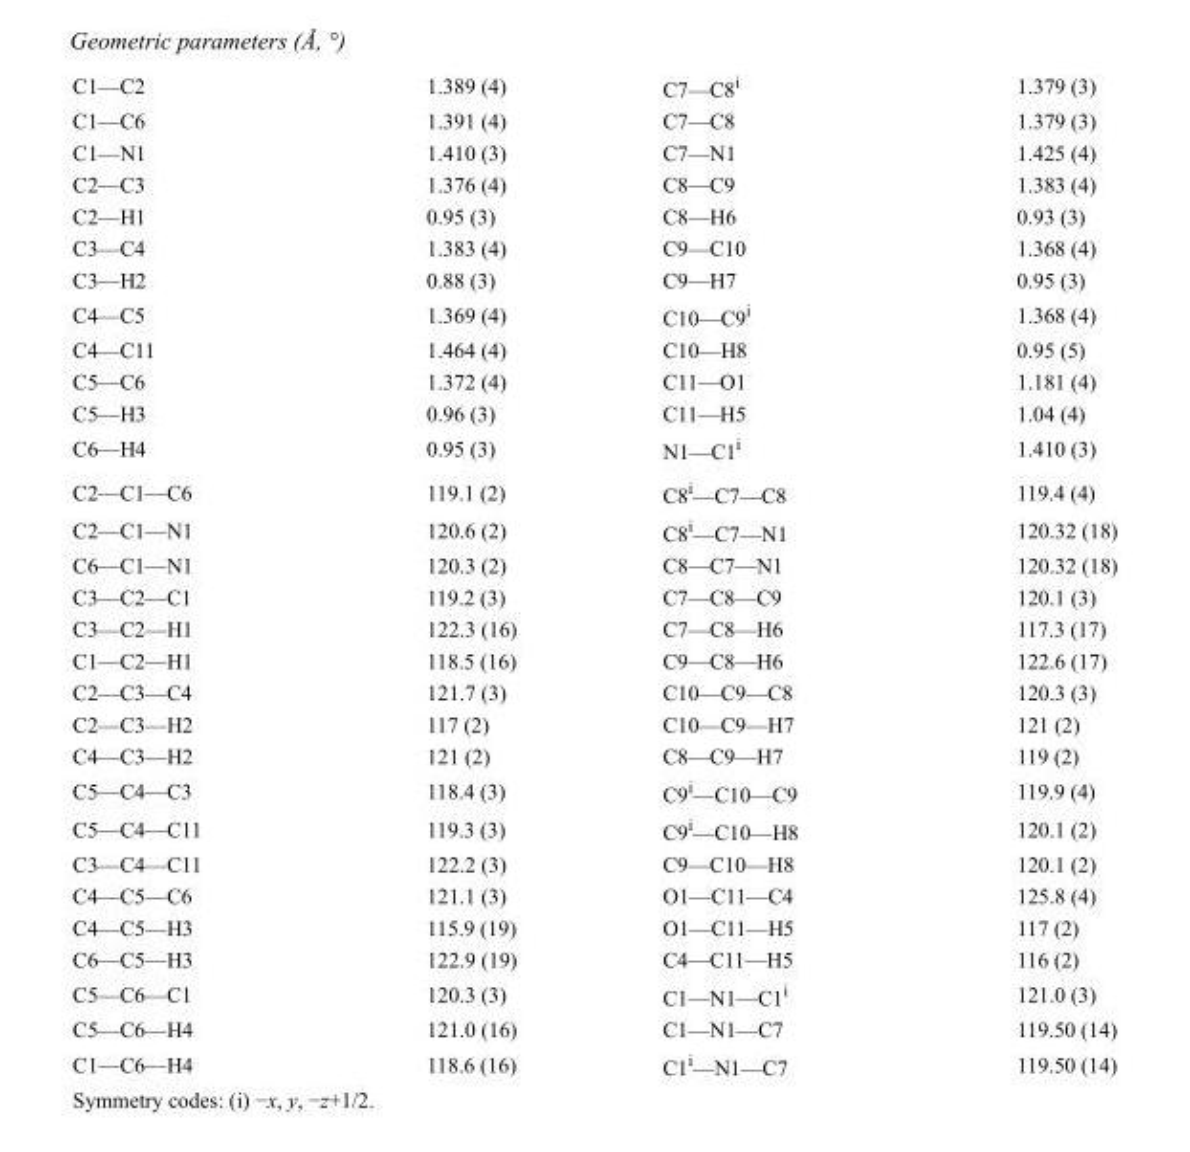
<table><tbody><tr><td>C1—C2</td><td>1.389 (4)</td><td>C7—C8<sup>i</sup></td><td>1.379 (3)</td></tr><tr><td>C1—C6</td><td>1.391 (4)</td><td>C7—C8</td><td>1.379 (3)</td></tr><tr><td>C1—N1</td><td>1.410 (3)</td><td>C7—N1</td><td>1.425 (4)</td></tr><tr><td>C2—C3</td><td>1.376 (4)</td><td>C8—C9</td><td>1.383 (4)</td></tr><tr><td>C2—H1</td><td>0.95 (3)</td><td>C8—H6</td><td>0.93 (3)</td></tr><tr><td>C3—C4</td><td>1.383 (4)</td><td>C9—C10</td><td>1.368 (4)</td></tr><tr><td>C3—H2</td><td>0.88 (3)</td><td>C9—H7</td><td>0.95 (3)</td></tr><tr><td>C4—C5</td><td>1.369 (4)</td><td>C10—C9<sup>i</sup></td><td>1.368 (4)</td></tr><tr><td>C4—C11</td><td>1.464 (4)</td><td>C10—H8</td><td>0.95 (5)</td></tr><tr><td>C5—C6</td><td>1.372 (4)</td><td>C11—O1</td><td>1.181 (4)</td></tr><tr><td>C5—H3</td><td>0.96 (3)</td><td>C11—H5</td><td>1.04 (4)</td></tr><tr><td>C6—H4</td><td>0.95 (3)</td><td>N1—C1<sup>i</sup></td><td>1.410 (3)</td></tr><tr><td>C2—C1—C6</td><td>119.1 (2)</td><td>C8<sup>i</sup>—C7—C8</td><td>119.4 (4)</td></tr><tr><td>C2—C1—N1</td><td>120.6 (2)</td><td>C8<sup>i</sup>—C7—N1</td><td>120.32 (18)</td></tr><tr><td>C6—C1—N1</td><td>120.3 (2)</td><td>C8—C7—N1</td><td>120.32 (18)</td></tr><tr><td>C3—C2—C1</td><td>119.2 (3)</td><td>C7—C8—C9</td><td>120.1 (3)</td></tr><tr><td>C3—C2—H1</td><td>122.3 (16)</td><td>C7—C8—H6</td><td>117.3 (17)</td></tr><tr><td>C1—C2—H1</td><td>118.5 (16)</td><td>C9—C8—H6</td><td>122.6 (17)</td></tr><tr><td>C2—C3—C4</td><td>121.7 (3)</td><td>C10—C9—C8</td><td>120.3 (3)</td></tr><tr><td>C2—C3—H2</td><td>117 (2)</td><td>C10—C9—H7</td><td>121 (2)</td></tr><tr><td>C4—C3—H2</td><td>121 (2)</td><td>C8—C9—H7</td><td>119 (2)</td></tr><tr><td>C5—C4—C3</td><td>118.4 (3)</td><td>C9<sup>i</sup>—C10—C9</td><td>119.9 (4)</td></tr><tr><td>C5—C4—C11</td><td>119.3 (3)</td><td>C9<sup>i</sup>—C10—H8</td><td>120.1 (2)</td></tr><tr><td>C3—C4—C11</td><td>122.2 (3)</td><td>C9—C10—H8</td><td>120.1 (2)</td></tr><tr><td>C4—C5—C6</td><td>121.1 (3)</td><td>O1—C11—C4</td><td>125.8 (4)</td></tr><tr><td>C4—C5—H3</td><td>115.9 (19)</td><td>O1—C11—H5</td><td>117 (2)</td></tr><tr><td>C6—C5—H3</td><td>122.9 (19)</td><td>C4—C11—H5</td><td>116 (2)</td></tr><tr><td>C5—C6—C1</td><td>120.3 (3)</td><td>C1—N1—C1<sup>i</sup></td><td>121.0 (3)</td></tr><tr><td>C5—C6—H4</td><td>121.0 (16)</td><td>C1—N1—C7</td><td>119.50 (14)</td></tr><tr><td>C1—C6—H4</td><td>118.6 (16)</td><td>C1<sup>i</sup>—N1—C7</td><td>119.50 (14)</td></tr></tbody></table>